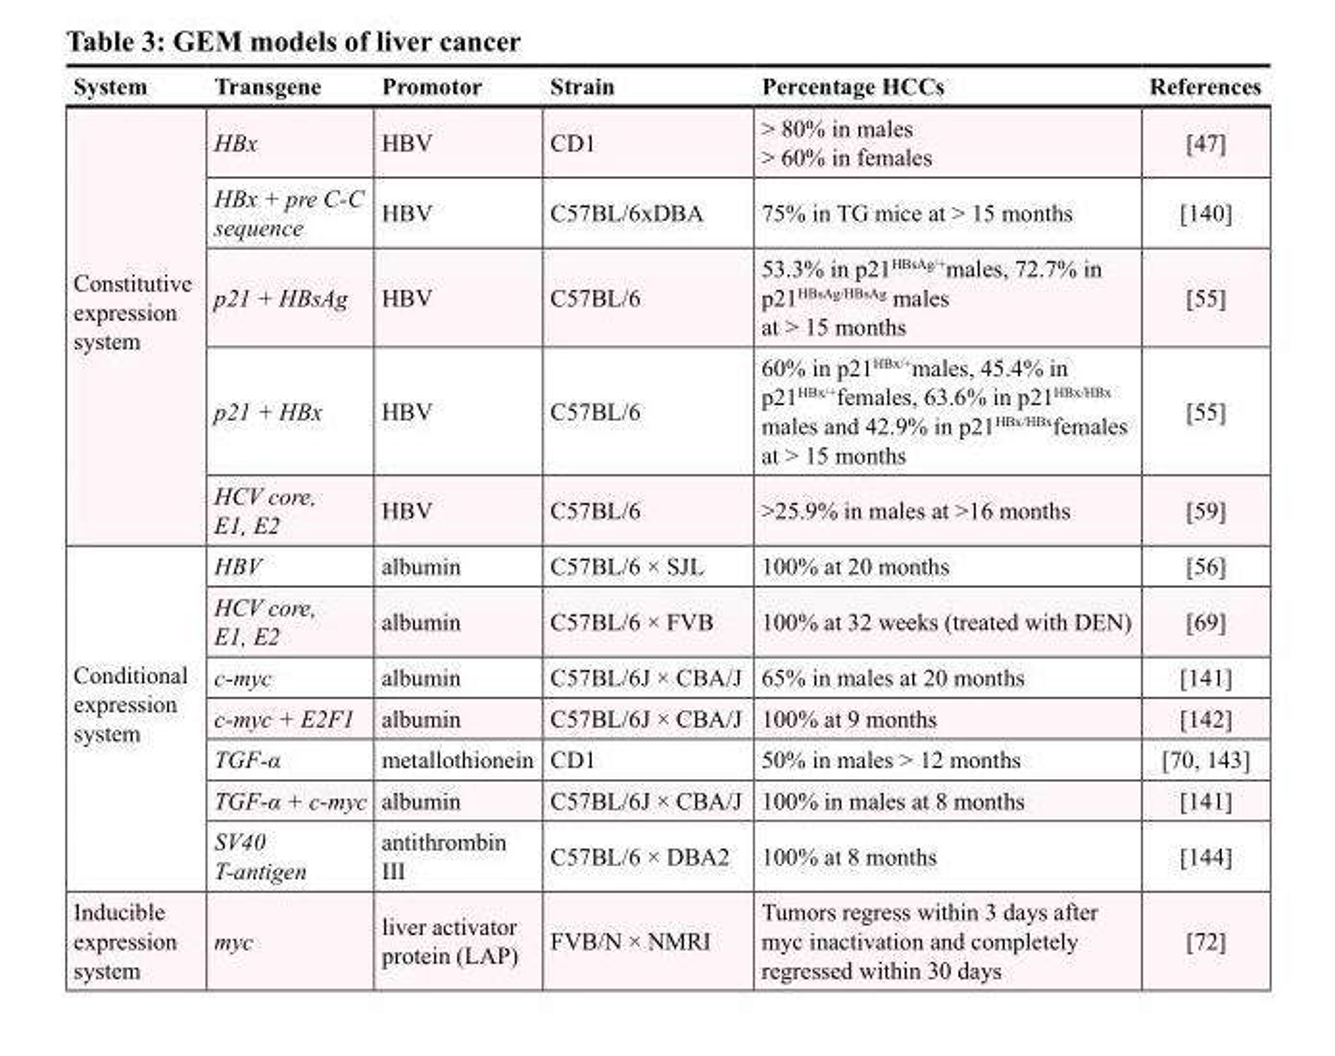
<table><thead><tr><td>System</td><td>Transgene</td><td>Promotor</td><td>Strain</td><td>Percentage HCCs</td><td>References</td></tr></thead><tbody><tr><td rowspan="5">Constitutive expression system</td><td>HBx</td><td>HBV</td><td>CD1</td><td>&gt; 80% in males &gt; 60% in females</td><td>[47]</td></tr><tr><td>HBx + pre C-C sequence</td><td>HBV</td><td>C57BL/6xDBA</td><td>75% in TG mice at &gt; 15 months</td><td>[140]</td></tr><tr><td>p21 + HBsAg</td><td>HBV</td><td>C57BL/6</td><td>53.3% in p21<sup>HBsAg/+</sup>males, 72.7% in p21<sup>HBsAg/HBsAg</sup> males at &gt; 15 months</td><td>[55]</td></tr><tr><td>p21 + HBx</td><td>HBV</td><td>C57BL/6</td><td>60% in p21<sup>HBx/+</sup>males, 45.4% in p21<sup>HBx/+</sup>females, 63.6% in p21<sup>HBx/HBx</sup> males and 42.9% in p21<sup>HBx/HBx</sup>females at &gt; 15 months</td><td>[55]</td></tr><tr><td>HCV core, E1, E2</td><td>HBV</td><td>C57BL/6</td><td>&gt;25.9% in males at &gt;16 months</td><td>[59]</td></tr><tr><td rowspan="7">Conditional expression system</td><td>HBV</td><td>albumin</td><td>C57BL/6 × SJL</td><td>100% at 20 months</td><td>[56]</td></tr><tr><td>HCV core, E1, E2</td><td>albumin</td><td>C57BL/6 × FVB</td><td>100% at 32 weeks (treated with DEN)</td><td>[69]</td></tr><tr><td>c-myc</td><td>albumin</td><td>C57BL/6J × CBA/J</td><td>65% in males at 20 months</td><td>[141]</td></tr><tr><td>c-myc + E2F1</td><td>albumin</td><td>C57BL/6J × CBA/J</td><td>100% at 9 months</td><td>[142]</td></tr><tr><td>TGF-α</td><td>metallothionein</td><td>CD1</td><td>50% in males &gt; 12 months</td><td>[70, 143]</td></tr><tr><td>TGF-α + c-myc</td><td>albumin</td><td>C57BL/6J × CBA/J</td><td>100% in males at 8 months</td><td>[141]</td></tr><tr><td>SV40 T-antigen</td><td>antithrombin III</td><td>C57BL/6 × DBA2</td><td>100% at 8 months</td><td>[144]</td></tr><tr><td>Inducible expression system</td><td>myc</td><td>liver activator protein (LAP)</td><td>FVB/N × NMRI</td><td>Tumors regress within 3 days after myc inactivation and completely regressed within 30 days</td><td>[72]</td></tr></tbody></table>